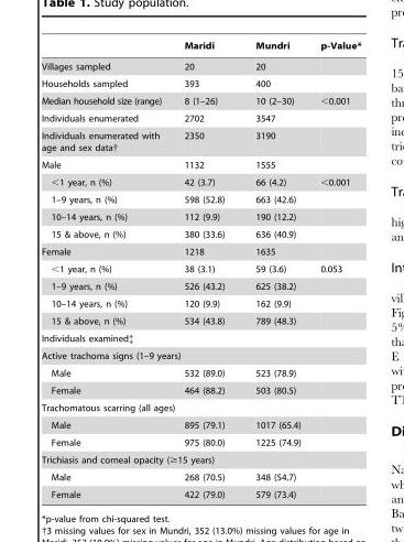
<table><thead><tr><td></td><td>Maridi</td><td>Mundri</td><td>p-Value*</td></tr></thead><tbody><tr><td>Villages sampled</td><td>20</td><td>20</td><td></td></tr><tr><td>Households sampled</td><td>393</td><td>400</td><td></td></tr><tr><td>Median household size (range)</td><td>8 (1–26)</td><td>10 (2–30)</td><td>&lt;0.001</td></tr><tr><td>Individuals enumerated</td><td>2702</td><td>3547</td><td></td></tr><tr><td>Individuals enumerated with age and sex data†</td><td>2350</td><td>3190</td><td></td></tr><tr><td>Male</td><td>1132</td><td>1555</td><td></td></tr><tr><td>&lt;1 year, n (%)</td><td>42 (3.7)</td><td>66 (4.2)</td><td>&lt;0.001</td></tr><tr><td>1–9 years, n (%)</td><td>598 (52.8)</td><td>663 (42.6)</td><td></td></tr><tr><td>10–14 years, n (%)</td><td>112 (9.9)</td><td>190 (12.2)</td><td></td></tr><tr><td>15 &amp; above, n (%)</td><td>380 (33.6)</td><td>636 (40.9)</td><td></td></tr><tr><td>Female</td><td>1218</td><td>1635</td><td></td></tr><tr><td>&lt;1 year, n (%)</td><td>38 (3.1)</td><td>59 (3.6)</td><td>0.053</td></tr><tr><td>1–9 years, n (%)</td><td>526 (43.2)</td><td>625 (38.2)</td><td></td></tr><tr><td>10–14 years, n (%)</td><td>120 (9.9)</td><td>162 (9.9)</td><td></td></tr><tr><td>15 &amp; above, n (%)</td><td>534 (43.8)</td><td>789 (48.3)</td><td></td></tr><tr><td colspan="4">Individuals examined‡</td></tr><tr><td colspan="4">Active trachoma signs (1–9 years)</td></tr><tr><td>Male</td><td>532 (89.0)</td><td>523 (78.9)</td><td></td></tr><tr><td>Female</td><td>464 (88.2)</td><td>503 (80.5)</td><td></td></tr><tr><td colspan="4">Trachomatous scarring (all ages)</td></tr><tr><td>Male</td><td>895 (79.1)</td><td>1017 (65.4)</td><td></td></tr><tr><td>Female</td><td>975 (80.0)</td><td>1225 (74.9)</td><td></td></tr><tr><td colspan="4">Trichiasis and corneal opacity (≥15 years)</td></tr><tr><td>Male</td><td>268 (70.5)</td><td>348 (54.7)</td><td></td></tr><tr><td>Female</td><td>422 (79.0)</td><td>579 (73.4)</td><td></td></tr></tbody></table>